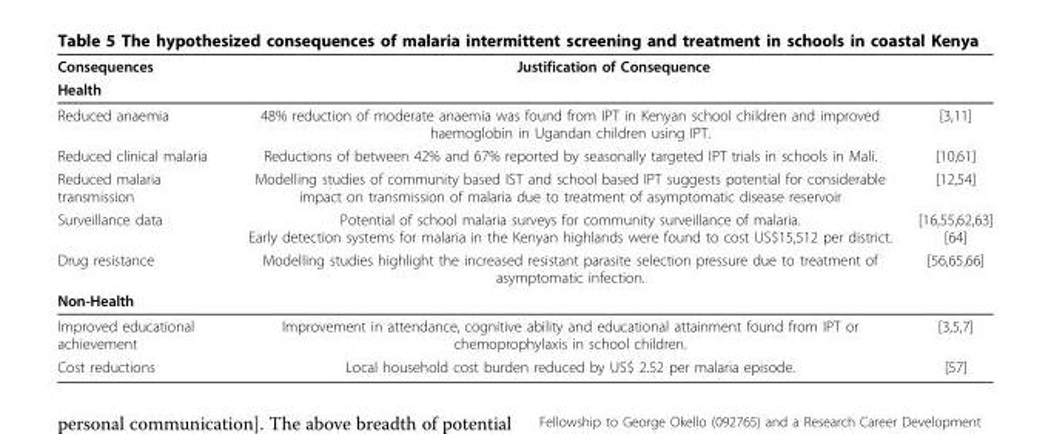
<table><thead><tr><td rowspan="2">Consequences Health</td><td colspan="2">Justification of Consequence</td></tr><tr><td></td><td></td></tr></thead><tbody><tr><td>Reduced anaemia</td><td>48% reduction of moderate anaemia was found from IPT in Kenyan school children and improved haemoglobin in Ugandan children using IPT.</td><td>[3,11]</td></tr><tr><td>Reduced clinical malaria</td><td>Reductions of between 42% and 67% reported by seasonally targeted IPT trials in schools in Mali.</td><td>[10,61]</td></tr><tr><td>Reduced malaria transmission</td><td>Modelling studies of community based IST and school based IPT suggests potential for considerable impact on transmission of malaria due to treatment of asymptomatic disease reservoir</td><td>[12,54]</td></tr><tr><td>Surveillance data</td><td>Potential of school malaria surveys for community surveillance of malaria. Early detection systems for malaria in the Kenyan highlands were found to cost US$15,512 per district.</td><td>[16,55,62,63] [64]</td></tr><tr><td>Drug resistance</td><td>Modelling studies highlight the increased resistant parasite selection pressure due to treatment of asymptomatic infection.</td><td>[56,65,66]</td></tr><tr><td colspan="3">Non-Health</td></tr><tr><td>Improved educational achievement</td><td>Improvement in attendance, cognitive ability and educational attainment found from IPT or chemoprophylaxis in school children.</td><td>[3,5,7]</td></tr><tr><td>Cost reductions</td><td>Local household cost burden reduced by US$ 2.52 per malaria episode.</td><td>[57]</td></tr></tbody></table>